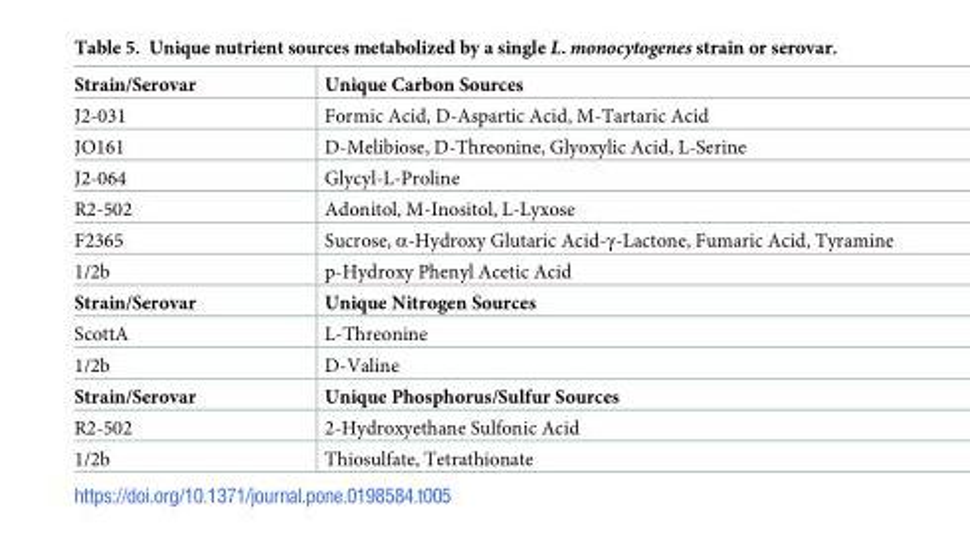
<table><tbody><tr><td>Strain/Serovar</td><td>Unique Carbon Sources</td></tr><tr><td>J2-031</td><td>Formic Acid, D-Aspartic Acid, M-Tartaric Acid</td></tr><tr><td>JO161</td><td>D-Melibiose, D-Threonine, Glyoxylic Acid, L-Serine</td></tr><tr><td>J2-064</td><td>Glycyl-L-Proline</td></tr><tr><td>R2-502</td><td>Adonitol, M-Inositol, L-Lyxose</td></tr><tr><td>F2365</td><td>Sucrose, α-Hydroxy Glutaric Acid-γ-Lactone, Fumaric Acid, Tyramine</td></tr><tr><td>1/2b</td><td>p-Hydroxy Phenyl Acetic Acid</td></tr><tr><td>Strain/Serovar</td><td>Unique Nitrogen Sources</td></tr><tr><td>ScottA</td><td>L-Threonine</td></tr><tr><td>1/2b</td><td>D-Valine</td></tr><tr><td>Strain/Serovar</td><td>Unique Phosphorus/Sulfur Sources</td></tr><tr><td>R2-502</td><td>2-Hydroxyethane Sulfonic Acid</td></tr><tr><td>1/2b</td><td>Thiosulfate, Tetrathionate</td></tr></tbody></table>